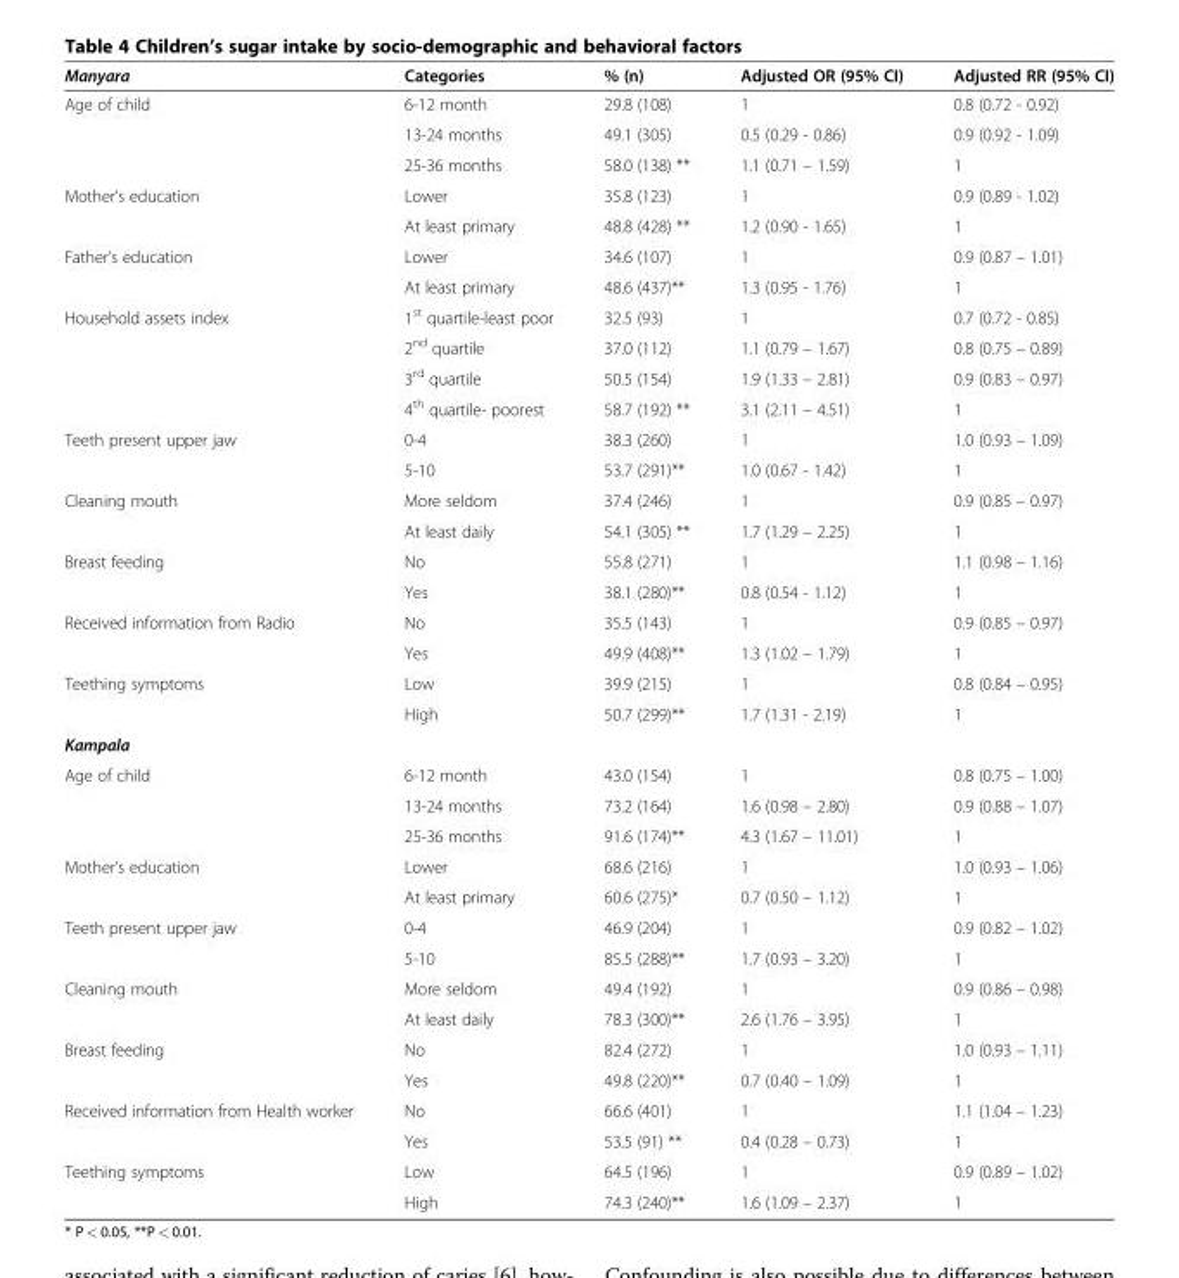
<table><thead><tr><td>Manyara</td><td>Categories</td><td>% (n)</td><td>Adjusted OR (95% CI)</td><td>Adjusted RR (95% CI)</td></tr></thead><tbody><tr><td rowspan="3">Age of child</td><td>6-12 month</td><td>29.8 (108)</td><td>1</td><td>0.8 (0.72 - 0.92)</td></tr><tr><td>13-24 months</td><td>49.1 (305)</td><td>0.5 (0.29 - 0.86)</td><td>0.9 (0.92 - 1.09)</td></tr><tr><td>25-36 months</td><td>58.0 (138) **</td><td>1.1 (0.71 – 1.59)</td><td>1</td></tr><tr><td rowspan="2">Mother’s education</td><td>Lower</td><td>35.8 (123)</td><td>1</td><td>0.9 (0.89 - 1.02)</td></tr><tr><td>At least primary</td><td>48.8 (428) **</td><td>1.2 (0.90 - 1.65)</td><td>1</td></tr><tr><td rowspan="2">Father’s education</td><td>Lower</td><td>34.6 (107)</td><td>1</td><td>0.9 (0.87 – 1.01)</td></tr><tr><td>At least primary</td><td>48.6 (437)**</td><td>1.3 (0.95 - 1.76)</td><td>1</td></tr><tr><td rowspan="4">Household assets index</td><td>1<sup>st</sup> quartile-least poor</td><td>32.5 (93)</td><td>1</td><td>0.7 (0.72 - 0.85)</td></tr><tr><td>2<sup>nd</sup> quartile</td><td>37.0 (112)</td><td>1.1 (0.79 – 1.67)</td><td>0.8 (0.75 – 0.89)</td></tr><tr><td>3<sup>rd</sup> quartile</td><td>50.5 (154)</td><td>1.9 (1.33 – 2.81)</td><td>0.9 (0.83 – 0.97)</td></tr><tr><td>4<sup>th</sup> quartile- poorest</td><td>58.7 (192) **</td><td>3.1 (2.11 – 4.51)</td><td>1</td></tr><tr><td rowspan="2">Teeth present upper jaw</td><td>0-4</td><td>38.3 (260)</td><td>1</td><td>1.0 (0.93 – 1.09)</td></tr><tr><td>5-10</td><td>53.7 (291)**</td><td>1.0 (0.67 - 1.42)</td><td>1</td></tr><tr><td rowspan="2">Cleaning mouth</td><td>More seldom</td><td>37.4 (246)</td><td>1</td><td>0.9 (0.85 – 0.97)</td></tr><tr><td>At least daily</td><td>54.1 (305) **</td><td>1.7 (1.29 – 2.25)</td><td>1</td></tr><tr><td rowspan="2">Breast feeding</td><td>No</td><td>55.8 (271)</td><td>1</td><td>1.1 (0.98 – 1.16)</td></tr><tr><td>Yes</td><td>38.1 (280)**</td><td>0.8 (0.54 - 1.12)</td><td>1</td></tr><tr><td rowspan="2">Received information from Radio</td><td>No</td><td>35.5 (143)</td><td>1</td><td>0.9 (0.85 – 0.97)</td></tr><tr><td>Yes</td><td>49.9 (408)**</td><td>1.3 (1.02 – 1.79)</td><td>1</td></tr><tr><td rowspan="2">Teething symptoms</td><td>Low</td><td>39.9 (215)</td><td>1</td><td>0.8 (0.84 – 0.95)</td></tr><tr><td>High</td><td>50.7 (299)**</td><td>1.7 (1.31 - 2.19)</td><td>1</td></tr><tr><td colspan="5">Kampala</td></tr><tr><td rowspan="3">Age of child</td><td>6-12 month</td><td>43.0 (154)</td><td>1</td><td>0.8 (0.75 – 1.00)</td></tr><tr><td>13-24 months</td><td>73.2 (164)</td><td>1.6 (0.98 – 2.80)</td><td>0.9 (0.88 – 1.07)</td></tr><tr><td>25-36 months</td><td>91.6 (174)**</td><td>4.3 (1.67 – 11.01)</td><td>1</td></tr><tr><td rowspan="2">Mother’s education</td><td>Lower</td><td>68.6 (216)</td><td>1</td><td>1.0 (0.93 – 1.06)</td></tr><tr><td>At least primary</td><td>60.6 (275)*</td><td>0.7 (0.50 – 1.12)</td><td>1</td></tr><tr><td rowspan="2">Teeth present upper jaw</td><td>0-4</td><td>46.9 (204)</td><td>1</td><td>0.9 (0.82 – 1.02)</td></tr><tr><td>5-10</td><td>85.5 (288)**</td><td>1.7 (0.93 – 3.20)</td><td>1</td></tr><tr><td rowspan="2">Cleaning mouth</td><td>More seldom</td><td>49.4 (192)</td><td>1</td><td>0.9 (0.86 – 0.98)</td></tr><tr><td>At least daily</td><td>78.3 (300)**</td><td>2.6 (1.76 – 3.95)</td><td>1</td></tr><tr><td rowspan="2">Breast feeding</td><td>No</td><td>82.4 (272)</td><td>1</td><td>1.0 (0.93 – 1.11)</td></tr><tr><td>Yes</td><td>49.8 (220)**</td><td>0.7 (0.40 – 1.09)</td><td>1</td></tr><tr><td rowspan="2">Received information from Health worker</td><td>No</td><td>66.6 (401)</td><td>1</td><td>1.1 (1.04 – 1.23)</td></tr><tr><td>Yes</td><td>53.5 (91) **</td><td>0.4 (0.28 – 0.73)</td><td>1</td></tr><tr><td rowspan="2">Teething symptoms</td><td>Low</td><td>64.5 (196)</td><td>1</td><td>0.9 (0.89 – 1.02)</td></tr><tr><td>High</td><td>74.3 (240)**</td><td>1.6 (1.09 – 2.37)</td><td>1</td></tr></tbody></table>